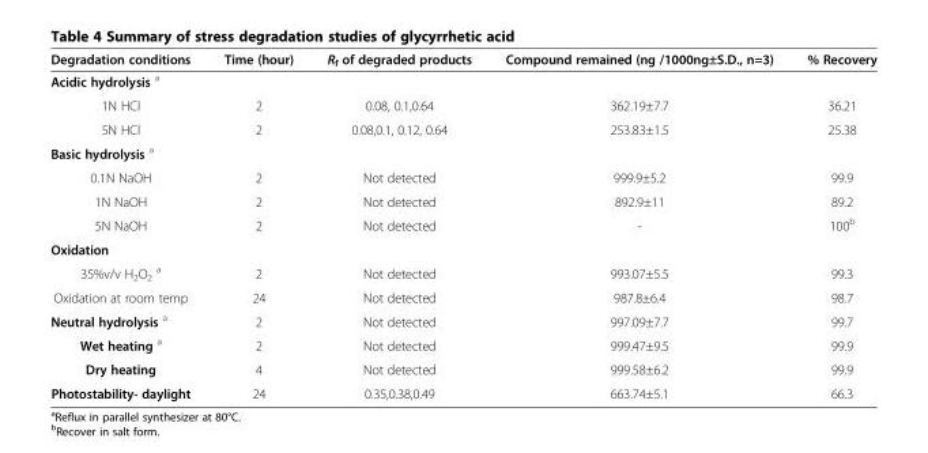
<table><thead><tr><td>Degradation conditions</td><td>Time (hour)</td><td>R<sub>f</sub> of degraded products</td><td>Compound remained (ng /1000ng±S.D., n=3)</td><td>% Recovery</td></tr></thead><tbody><tr><td colspan="5">Acidic hydrolysis <sup>a</sup></td></tr><tr><td>1N HCl</td><td>2</td><td>0.08, 0.1,0.64</td><td>362.19±7.7</td><td>36.21</td></tr><tr><td>5N HCl</td><td>2</td><td>0.08,0.1, 0.12, 0.64</td><td>253.83±1.5</td><td>25.38</td></tr><tr><td colspan="5">Basic hydrolysis <sup>a</sup></td></tr><tr><td>0.1N NaOH</td><td>2</td><td>Not detected</td><td>999.9±5.2</td><td>99.9</td></tr><tr><td>1N NaOH</td><td>2</td><td>Not detected</td><td>892.9±11</td><td>89.2</td></tr><tr><td>5N NaOH</td><td>2</td><td>Not detected</td><td>-</td><td>100<sup>b</sup></td></tr><tr><td colspan="5">Oxidation</td></tr><tr><td>35%v/v H<sub>2</sub>O<sub>2</sub> <sup>a</sup></td><td>2</td><td>Not detected</td><td>993.07±5.5</td><td>99.3</td></tr><tr><td>Oxidation at room temp</td><td>24</td><td>Not detected</td><td>987.8±6.4</td><td>98.7</td></tr><tr><td>Neutral hydrolysis <sup>a</sup></td><td>2</td><td>Not detected</td><td>997.09±7.7</td><td>99.7</td></tr><tr><td>Wet heating <sup>a</sup></td><td>2</td><td>Not detected</td><td>999.47±9.5</td><td>99.9</td></tr><tr><td>Dry heating</td><td>4</td><td>Not detected</td><td>999.58±6.2</td><td>99.9</td></tr><tr><td>Photostability- daylight</td><td>24</td><td>0.35,0.38,0.49</td><td>663.74±5.1</td><td>66.3</td></tr></tbody></table>